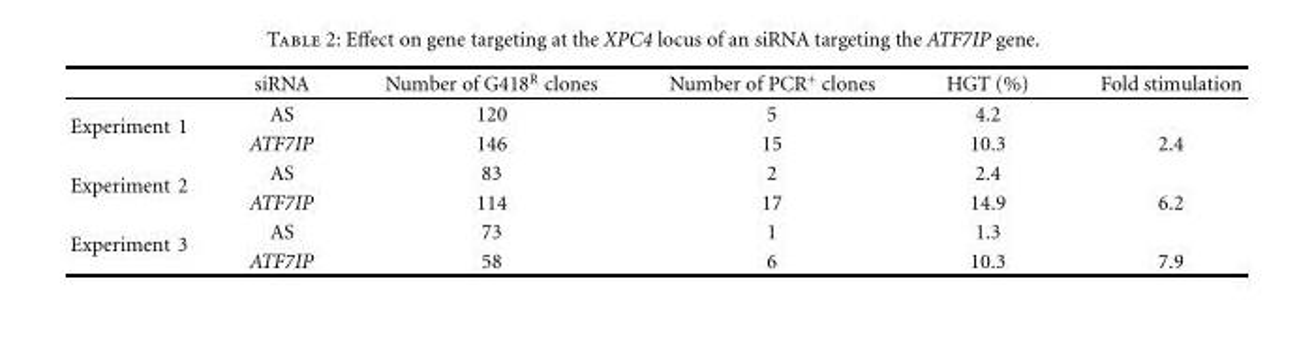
<table><thead><tr><td></td><td>siRNA</td><td>Number of G418<sup>R</sup> clones</td><td>Number of PCR<sup>+</sup> clones</td><td>HGT (%)</td><td>Fold stimulation</td></tr></thead><tbody><tr><td rowspan="2">Experiment 1</td><td>AS</td><td>120</td><td>5</td><td>4.2</td><td></td></tr><tr><td>ATF7IP</td><td>146</td><td>15</td><td>10.3</td><td>2.4</td></tr><tr><td rowspan="2">Experiment 2</td><td>AS</td><td>83</td><td>2</td><td>2.4</td><td></td></tr><tr><td>ATF7IP</td><td>114</td><td>17</td><td>14.9</td><td>6.2</td></tr><tr><td rowspan="2">Experiment 3</td><td>AS</td><td>73</td><td>1</td><td>1.3</td><td></td></tr><tr><td>ATF7IP</td><td>58</td><td>6</td><td>10.3</td><td>7.9</td></tr></tbody></table>